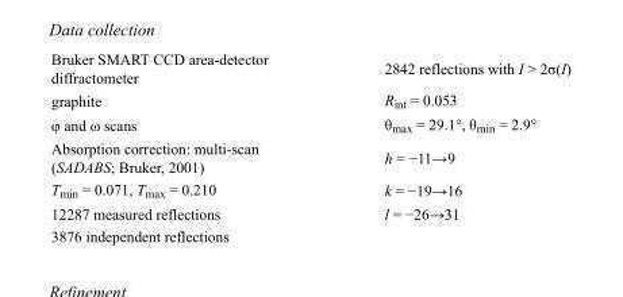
<table><tbody><tr><td>Bruker SMART CCD area-detector diffractometer</td><td>2842 reflections with I &gt; 2σ(I)</td></tr><tr><td>graphite</td><td>R<sub>int</sub> = 0.053</td></tr><tr><td>φ and ω scans</td><td>θ<sub>max</sub> = 29.1°, θ<sub>min</sub> = 2.9°</td></tr><tr><td>Absorption correction: multi-scan (SADABS; Bruker, 2001)</td><td>h = −11→9</td></tr><tr><td>T<sub>min</sub> = 0.071, T<sub>max</sub> = 0.210</td><td>k = −19→16</td></tr><tr><td>12287 measured reflections</td><td>l = −26→31</td></tr><tr><td>3876 independent reflections</td><td></td></tr></tbody></table>